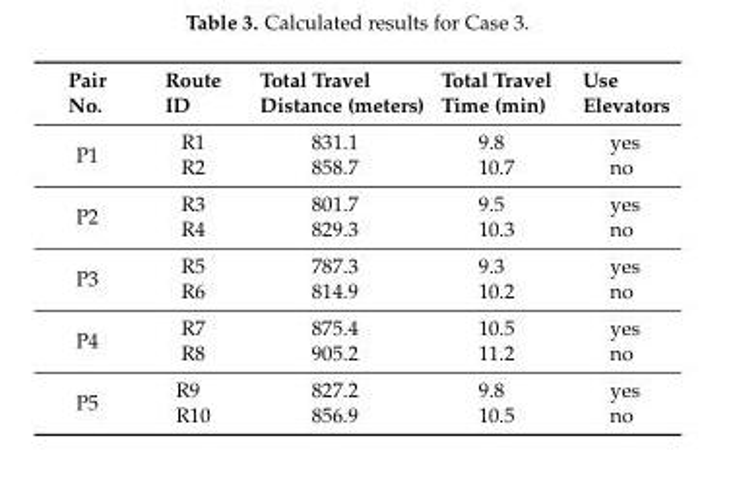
<table><thead><tr><td>Pair No.</td><td>Route ID</td><td>Total Travel Distance (meters)</td><td>Total Travel Time (min)</td><td>Use Elevators</td></tr></thead><tbody><tr><td>P1</td><td>R1 R2</td><td>831.1 858.7</td><td>9.8 10.7</td><td>yes no</td></tr><tr><td>P2</td><td>R3 R4</td><td>801.7 829.3</td><td>9.5 10.3</td><td>yes no</td></tr><tr><td>P3</td><td>R5 R6</td><td>787.3 814.9</td><td>9.3 10.2</td><td>yes no</td></tr><tr><td>P4</td><td>R7 R8</td><td>875.4 905.2</td><td>10.5 11.2</td><td>yes no</td></tr><tr><td>P5</td><td>R9 R10</td><td>827.2 856.9</td><td>9.8 10.5</td><td>yes no</td></tr></tbody></table>